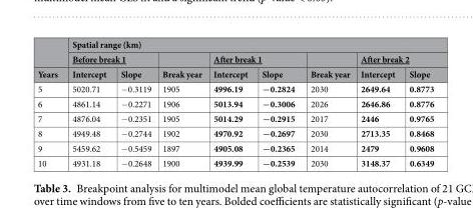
<table><thead><tr><td rowspan="3">Years</td><td colspan="8">Spatial range (km)</td></tr><tr><td colspan="2">Before break 1</td><td rowspan="2">Break year</td><td colspan="2">After break 1</td><td rowspan="2">Break year</td><td colspan="2">After break 2</td></tr><tr><td>Intercept</td><td>Slope</td><td>Intercept</td><td>Slope</td><td>Intercept</td><td>Slope</td></tr></thead><tbody><tr><td>5</td><td>5020.71</td><td>−0.3119</td><td>1905</td><td>4996.19</td><td>−0.2824</td><td>2030</td><td>2649.64</td><td>0.8773</td></tr><tr><td>6</td><td>4861.14</td><td>−0.2271</td><td>1906</td><td>5013.94</td><td>−0.3006</td><td>2026</td><td>2646.86</td><td>0.8776</td></tr><tr><td>7</td><td>4876.04</td><td>−0.2351</td><td>1905</td><td>5014.29</td><td>−0.2915</td><td>2017</td><td>2446</td><td>0.9765</td></tr><tr><td>8</td><td>4949.48</td><td>−0.2744</td><td>1902</td><td>4970.92</td><td>−0.2697</td><td>2030</td><td>2713.35</td><td>0.8468</td></tr><tr><td>9</td><td>5459.62</td><td>−0.5459</td><td>1897</td><td>4905.08</td><td>−0.2365</td><td>2014</td><td>2479</td><td>0.9608</td></tr><tr><td>10</td><td>4931.18</td><td>−0.2648</td><td>1900</td><td>4939.99</td><td>−0.2539</td><td>2030</td><td>3148.37</td><td>0.6349</td></tr></tbody></table>